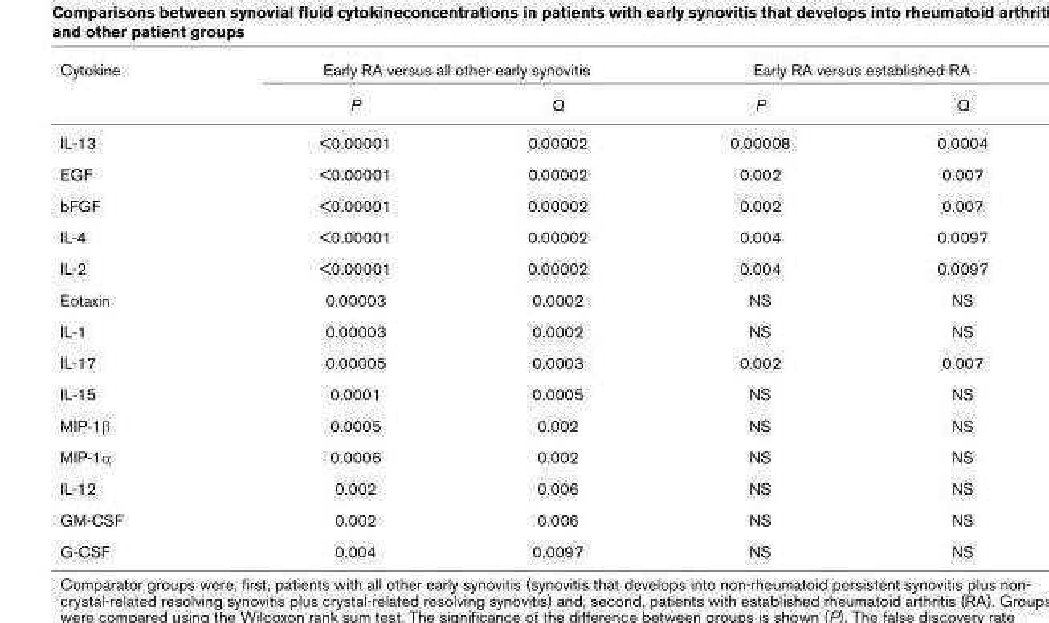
<table><thead><tr><td rowspan="2">Cytokine</td><td colspan="2">Early RA versus all other early synovitis</td><td colspan="2">Early RA versus established RA</td></tr><tr><td>P</td><td>Q</td><td>P</td><td>Q</td></tr></thead><tbody><tr><td>IL-13</td><td>&lt;0.00001</td><td>0.00002</td><td>0.00008</td><td>0.0004</td></tr><tr><td>EGF</td><td>&lt;0.00001</td><td>0.00002</td><td>0.002</td><td>0.007</td></tr><tr><td>bFGF</td><td>&lt;0.00001</td><td>0.00002</td><td>0.002</td><td>0.007</td></tr><tr><td>IL-4</td><td>&lt;0.00001</td><td>0.00002</td><td>0.004</td><td>0.0097</td></tr><tr><td>IL-2</td><td>&lt;0.00001</td><td>0.00002</td><td>0.004</td><td>0.0097</td></tr><tr><td>Eotaxin</td><td>0.00003</td><td>0.0002</td><td>NS</td><td>NS</td></tr><tr><td>IL-1</td><td>0.00003</td><td>0.0002</td><td>NS</td><td>NS</td></tr><tr><td>IL-17</td><td>0.00005</td><td>0.0003</td><td>0.002</td><td>0.007</td></tr><tr><td>IL-15</td><td>0.0001</td><td>0.0005</td><td>NS</td><td>NS</td></tr><tr><td>MIP-1β</td><td>0.0005</td><td>0.002</td><td>NS</td><td>NS</td></tr><tr><td>MIP-1α</td><td>0.0006</td><td>0.002</td><td>NS</td><td>NS</td></tr><tr><td>IL-12</td><td>0.002</td><td>0.006</td><td>NS</td><td>NS</td></tr><tr><td>GM-CSF</td><td>0.002</td><td>0.006</td><td>NS</td><td>NS</td></tr><tr><td>G-CSF</td><td>0.004</td><td>0.0097</td><td>NS</td><td>NS</td></tr></tbody></table>